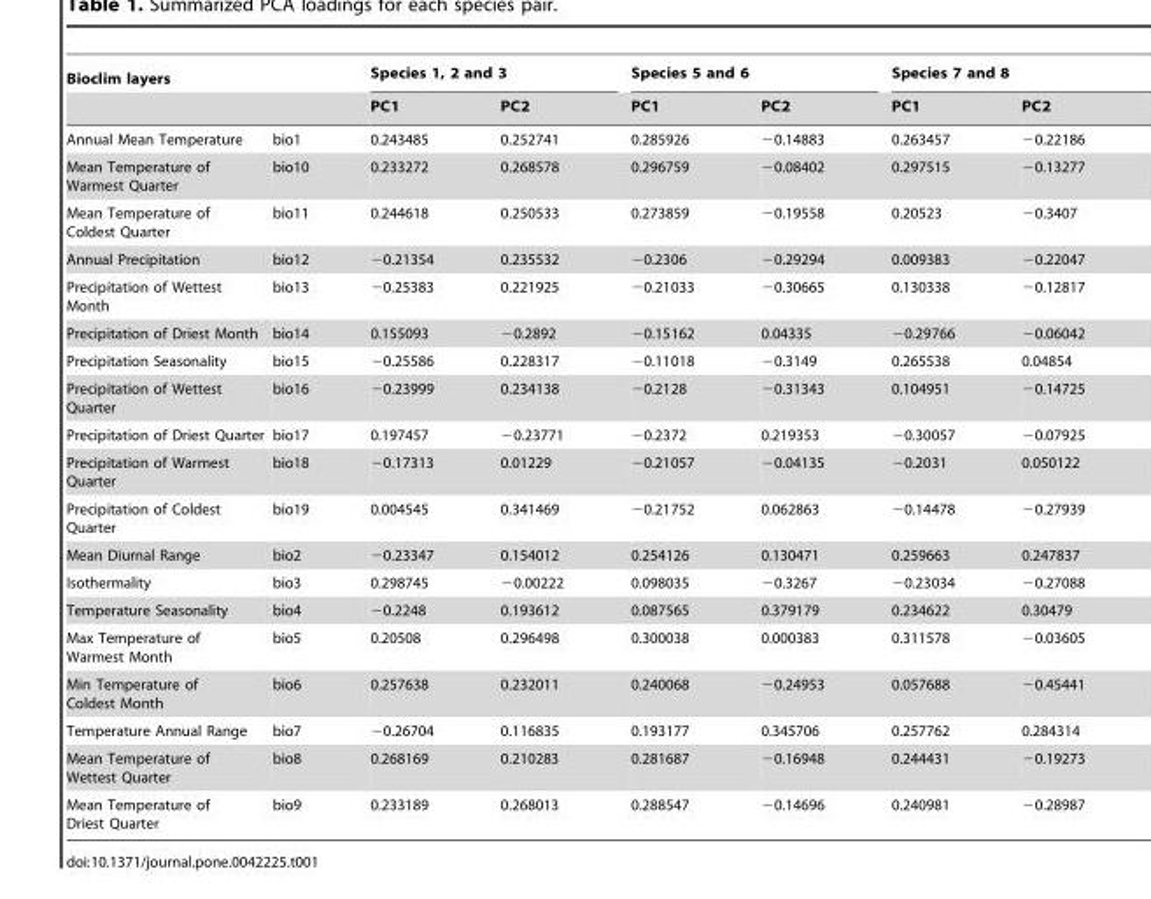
<table><thead><tr><td colspan="2">Bioclim layers</td><td colspan="2">Species 1, 2 and 3</td><td colspan="2">Species 5 and 6</td><td colspan="2">Species 7 and 8</td></tr><tr><td></td><td></td><td>PC1</td><td>PC2</td><td>PC1</td><td>PC2</td><td>PC1</td><td>PC2</td></tr></thead><tbody><tr><td>Annual Mean Temperature</td><td>bio1</td><td>0.243485</td><td>0.252741</td><td>0.285926</td><td>−0.14883</td><td>0.263457</td><td>−0.22186</td></tr><tr><td>Mean Temperature of Warmest Quarter</td><td>bio10</td><td>0.233272</td><td>0.268578</td><td>0.296759</td><td>−0.08402</td><td>0.297515</td><td>−0.13277</td></tr><tr><td>Mean Temperature of Coldest Quarter</td><td>bio11</td><td>0.244618</td><td>0.250533</td><td>0.273859</td><td>−0.19558</td><td>0.20523</td><td>−0.3407</td></tr><tr><td>Annual Precipitation</td><td>bio12</td><td>−0.21354</td><td>0.235532</td><td>−0.2306</td><td>−0.29294</td><td>0.009383</td><td>−0.22047</td></tr><tr><td>Precipitation of Wettest Month</td><td>bio13</td><td>−0.25383</td><td>0.221925</td><td>−0.21033</td><td>−0.30665</td><td>0.130338</td><td>−0.12817</td></tr><tr><td>Precipitation of Driest Month</td><td>bio14</td><td>0.155093</td><td>−0.2892</td><td>−0.15162</td><td>0.04335</td><td>−0.29766</td><td>−0.06042</td></tr><tr><td>Precipitation Seasonality</td><td>bio15</td><td>−0.25586</td><td>0.228317</td><td>−0.11018</td><td>−0.3149</td><td>0.265538</td><td>0.04854</td></tr><tr><td>Precipitation of Wettest Quarter</td><td>bio16</td><td>−0.23999</td><td>0.234138</td><td>−0.2128</td><td>−0.31343</td><td>0.104951</td><td>−0.14725</td></tr><tr><td>Precipitation of Driest Quarter</td><td>bio17</td><td>0.197457</td><td>−0.23771</td><td>−0.2372</td><td>0.219353</td><td>−0.30057</td><td>−0.07925</td></tr><tr><td>Precipitation of Warmest Quarter</td><td>bio18</td><td>−0.17313</td><td>0.01229</td><td>−0.21057</td><td>−0.04135</td><td>−0.2031</td><td>0.050122</td></tr><tr><td>Precipitation of Coldest Quarter</td><td>bio19</td><td>0.004545</td><td>0.341469</td><td>−0.21752</td><td>0.062863</td><td>−0.14478</td><td>−0.27939</td></tr><tr><td>Mean Diurnal Range</td><td>bio2</td><td>−0.23347</td><td>0.154012</td><td>0.254126</td><td>0.130471</td><td>0.259663</td><td>0.247837</td></tr><tr><td>Isothermality</td><td>bio3</td><td>0.298745</td><td>−0.00222</td><td>0.098035</td><td>−0.3267</td><td>−0.23034</td><td>−0.27088</td></tr><tr><td>Temperature Seasonality</td><td>bio4</td><td>−0.2248</td><td>0.193612</td><td>0.087565</td><td>0.379179</td><td>0.234622</td><td>0.30479</td></tr><tr><td>Max Temperature of Warmest Month</td><td>bio5</td><td>0.20508</td><td>0.296498</td><td>0.300038</td><td>0.000383</td><td>0.311578</td><td>−0.03605</td></tr><tr><td>Min Temperature of Coldest Month</td><td>bio6</td><td>0.257638</td><td>0.232011</td><td>0.240068</td><td>−0.24953</td><td>0.057688</td><td>−0.45441</td></tr><tr><td>Temperature Annual Range</td><td>bio7</td><td>−0.26704</td><td>0.116835</td><td>0.193177</td><td>0.345706</td><td>0.257762</td><td>0.284314</td></tr><tr><td>Mean Temperature of Wettest Quarter</td><td>bio8</td><td>0.268169</td><td>0.210283</td><td>0.281687</td><td>−0.16948</td><td>0.244431</td><td>−0.19273</td></tr><tr><td>Mean Temperature of Driest Quarter</td><td>bio9</td><td>0.233189</td><td>0.268013</td><td>0.288547</td><td>−0.14696</td><td>0.240981</td><td>−0.28987</td></tr></tbody></table>